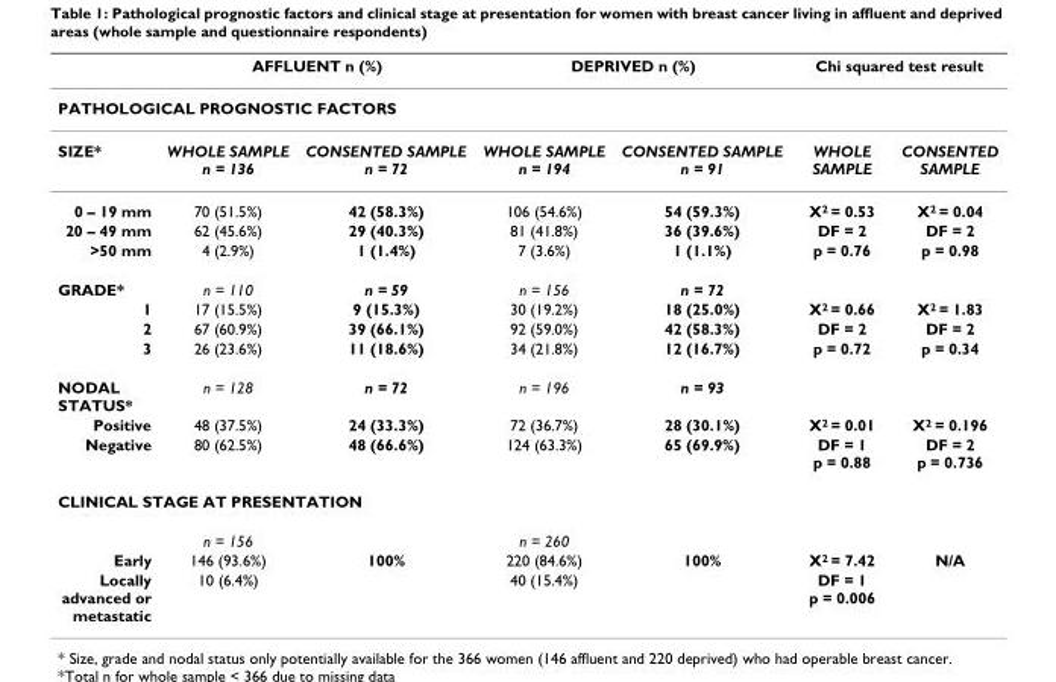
<table><thead><tr><td></td><td colspan="2">AFFLUENT n (%)</td><td colspan="2">DEPRIVED n (%)</td><td colspan="2">Chi squared test result</td></tr><tr><td colspan="7">PATHOLOGICAL PROGNOSTIC FACTORS</td></tr><tr><td>SIZE*</td><td>WHOLE SAMPLE n = 136</td><td>CONSENTED SAMPLE n = 72</td><td>WHOLE SAMPLE n = 194</td><td>CONSENTED SAMPLE n = 91</td><td>WHOLE SAMPLE</td><td>CONSENTED SAMPLE</td></tr></thead><tbody><tr><td>0 – 19 mm</td><td>70 (51.5%)</td><td>42 (58.3%)</td><td>106 (54.6%)</td><td>54 (59.3%)</td><td>X<sup>2</sup> = 0.53</td><td>X<sup>2</sup> = 0.04</td></tr><tr><td>20 – 49 mm</td><td>62 (45.6%)</td><td>29 (40.3%)</td><td>81 (41.8%)</td><td>36 (39.6%)</td><td>DF = 2</td><td>DF = 2</td></tr><tr><td>&gt;50 mm</td><td>4 (2.9%)</td><td>1 (1.4%)</td><td>7 (3.6%)</td><td>1 (1.1%)</td><td>p = 0.76</td><td>p = 0.98</td></tr><tr><td>GRADE*</td><td>n = 110</td><td>n = 59</td><td>n = 156</td><td>n = 72</td><td></td><td></td></tr><tr><td>1</td><td>17 (15.5%)</td><td>9 (15.3%)</td><td>30 (19.2%)</td><td>18 (25.0%)</td><td>X<sup>2</sup> = 0.66</td><td>X<sup>2</sup> = 1.83</td></tr><tr><td>2</td><td>67 (60.9%)</td><td>39 (66.1%)</td><td>92 (59.0%)</td><td>42 (58.3%)</td><td>DF = 2</td><td>DF = 2</td></tr><tr><td>3</td><td>26 (23.6%)</td><td>11 (18.6%)</td><td>34 (21.8%)</td><td>12 (16.7%)</td><td>p = 0.72</td><td>p = 0.34</td></tr><tr><td>NODAL STATUS*</td><td>n = 128</td><td>n = 72</td><td>n = 196</td><td>n = 93</td><td></td><td></td></tr><tr><td>Positive</td><td>48 (37.5%)</td><td>24 (33.3%)</td><td>72 (36.7%)</td><td>28 (30.1%)</td><td>X<sup>2</sup> = 0.01</td><td>X<sup>2</sup> = 0.196</td></tr><tr><td>Negative</td><td>80 (62.5%)</td><td>48 (66.6%)</td><td>124 (63.3%)</td><td>65 (69.9%)</td><td>DF = 1 p = 0.88</td><td>DF = 2 p = 0.736</td></tr><tr><td colspan="7">CLINICAL STAGE AT PRESENTATION</td></tr><tr><td></td><td>n = 156</td><td></td><td>n = 260</td><td></td><td></td><td></td></tr><tr><td>Early</td><td>146 (93.6%)</td><td>100%</td><td>220 (84.6%)</td><td>100%</td><td>X<sup>2</sup> = 7.42</td><td>N/A</td></tr><tr><td>Locally advanced or metastatic</td><td>10 (6.4%)</td><td></td><td>40 (15.4%)</td><td></td><td>DF = 1 p = 0.006</td><td></td></tr></tbody></table>